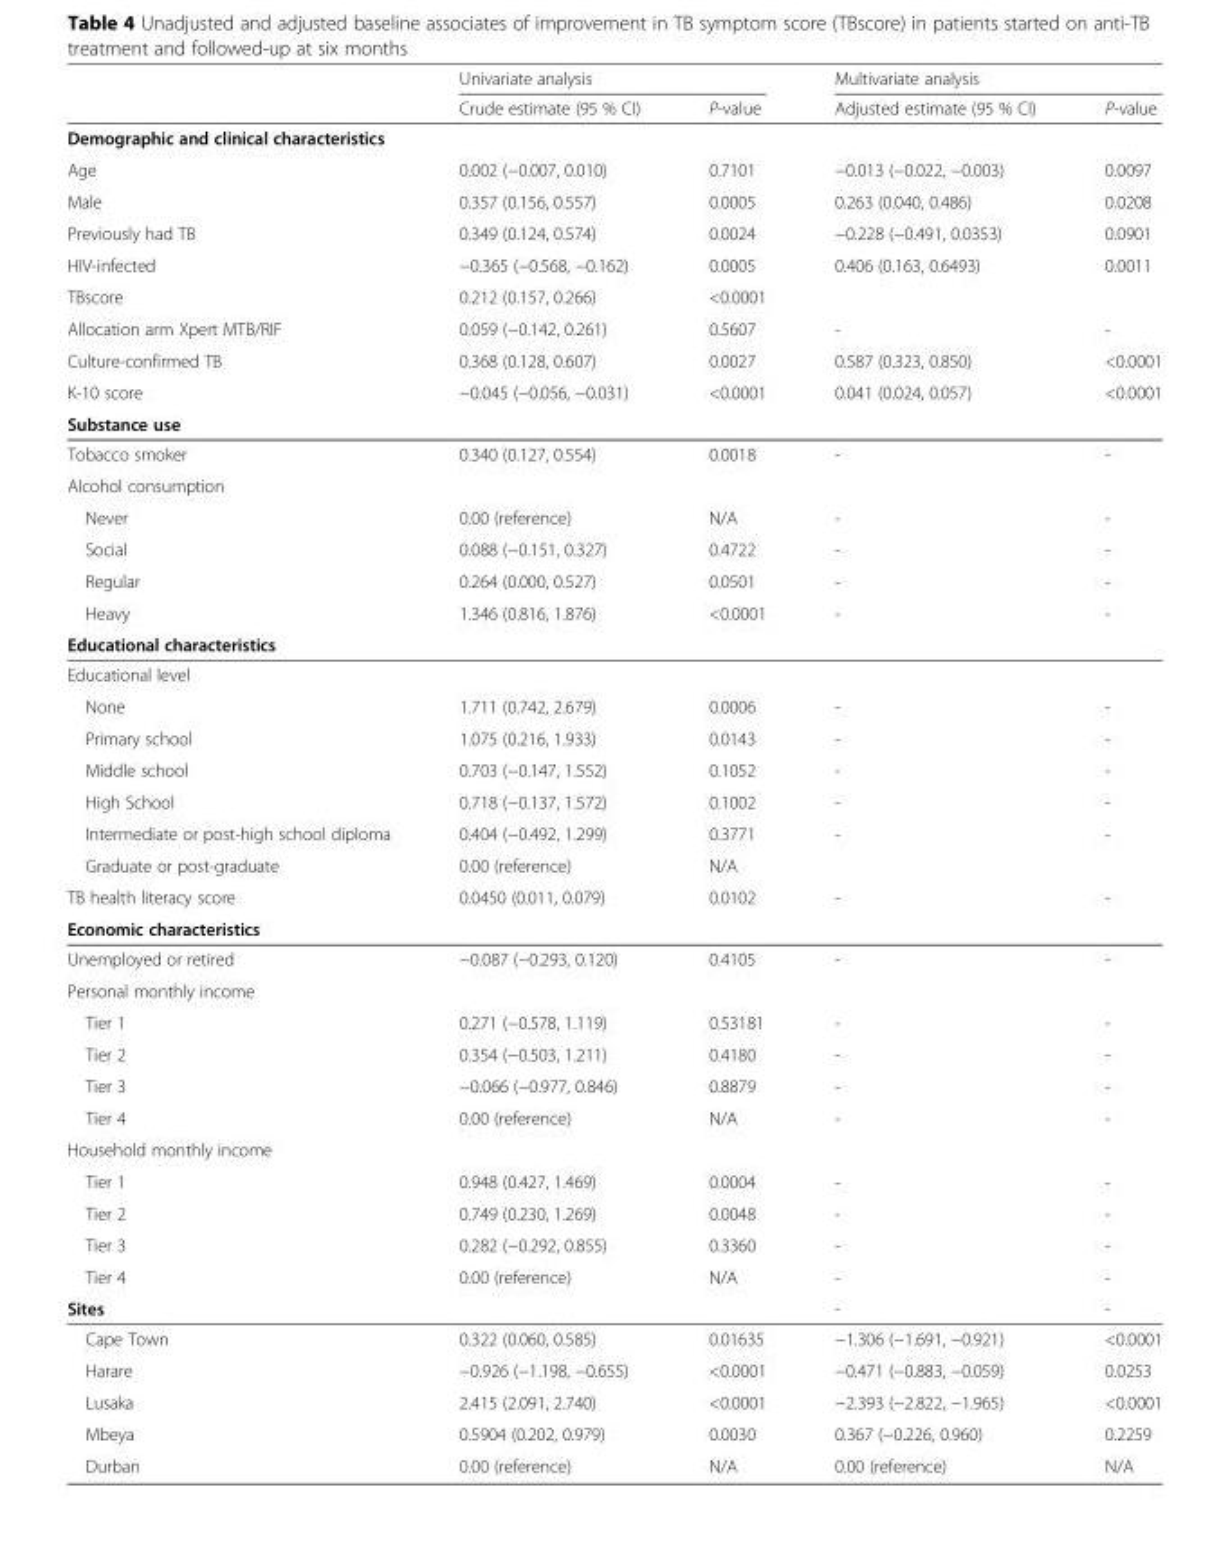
<table><thead><tr><td rowspan="2"></td><td colspan="2">Univariate analysis</td><td colspan="2">Multivariate analysis</td></tr><tr><td>Crude estimate (95 % CI)</td><td>P-value</td><td>Adjusted estimate (95 % CI)</td><td>P-value</td></tr></thead><tbody><tr><td colspan="5">Demographic and clinical characteristics</td></tr><tr><td>Age</td><td>0.002 (−0.007, 0.010)</td><td>0.7101</td><td>−0.013 (−0.022, −0.003)</td><td>0.0097</td></tr><tr><td>Male</td><td>0.357 (0.156, 0.557)</td><td>0.0005</td><td>0.263 (0.040, 0.486)</td><td>0.0208</td></tr><tr><td>Previously had TB</td><td>0.349 (0.124, 0.574)</td><td>0.0024</td><td>−0.228 (−0.491, 0.0353)</td><td>0.0901</td></tr><tr><td>HIV-infected</td><td>−0.365 (−0.568, −0.162)</td><td>0.0005</td><td>0.406 (0.163, 0.6493)</td><td>0.0011</td></tr><tr><td>TBscore</td><td>0.212 (0.157, 0.266)</td><td>&lt;0.0001</td><td></td><td></td></tr><tr><td>Allocation arm Xpert MTB/RIF</td><td>0.059 (−0.142, 0.261)</td><td>0.5607</td><td>-</td><td>-</td></tr><tr><td>Culture-confirmed TB</td><td>0.368 (0.128, 0.607)</td><td>0.0027</td><td>0.587 (0.323, 0.850)</td><td>&lt;0.0001</td></tr><tr><td>K-10 score</td><td>−0.045 (−0.056, −0.031)</td><td>&lt;0.0001</td><td>0.041 (0.024, 0.057)</td><td>&lt;0.0001</td></tr><tr><td colspan="5">Substance use</td></tr><tr><td>Tobacco smoker</td><td>0.340 (0.127, 0.554)</td><td>0.0018</td><td>-</td><td>-</td></tr><tr><td colspan="5">Alcohol consumption</td></tr><tr><td>Never</td><td>0.00 (reference)</td><td>N/A</td><td>-</td><td>-</td></tr><tr><td>Social</td><td>0.088 (−0.151, 0.327)</td><td>0.4722</td><td>-</td><td>-</td></tr><tr><td>Regular</td><td>0.264 (0.000, 0.527)</td><td>0.0501</td><td>-</td><td>-</td></tr><tr><td>Heavy</td><td>1.346 (0.816, 1.876)</td><td>&lt;0.0001</td><td>-</td><td>-</td></tr><tr><td colspan="5">Educational characteristics</td></tr><tr><td colspan="5">Educational level</td></tr><tr><td>None</td><td>1.711 (0.742, 2.679)</td><td>0.0006</td><td>-</td><td>-</td></tr><tr><td>Primary school</td><td>1.075 (0.216, 1.933)</td><td>0.0143</td><td>-</td><td>-</td></tr><tr><td>Middle school</td><td>0.703 (−0.147, 1.552)</td><td>0.1052</td><td>-</td><td>-</td></tr><tr><td>High School</td><td>0.718 (−0.137, 1.572)</td><td>0.1002</td><td>-</td><td>-</td></tr><tr><td>Intermediate or post-high school diploma</td><td>0.404 (−0.492, 1.299)</td><td>0.3771</td><td>-</td><td>-</td></tr><tr><td>Graduate or post-graduate</td><td>0.00 (reference)</td><td>N/A</td><td></td><td></td></tr><tr><td>TB health literacy score</td><td>0.0450 (0.011, 0.079)</td><td>0.0102</td><td>-</td><td>-</td></tr><tr><td colspan="5">Economic characteristics</td></tr><tr><td>Unemployed or retired</td><td>−0.087 (−0.293, 0.120)</td><td>0.4105</td><td>-</td><td>-</td></tr><tr><td colspan="5">Personal monthly income</td></tr><tr><td>Tier 1</td><td>0.271 (−0.578, 1.119)</td><td>0.53181</td><td>-</td><td>-</td></tr><tr><td>Tier 2</td><td>0.354 (−0.503, 1.211)</td><td>0.4180</td><td>-</td><td>-</td></tr><tr><td>Tier 3</td><td>−0.066 (−0.977, 0.846)</td><td>0.8879</td><td>-</td><td>-</td></tr><tr><td>Tier 4</td><td>0.00 (reference)</td><td>N/A</td><td>-</td><td>-</td></tr><tr><td colspan="5">Household monthly income</td></tr><tr><td>Tier 1</td><td>0.948 (0.427, 1.469)</td><td>0.0004</td><td>-</td><td>-</td></tr><tr><td>Tier 2</td><td>0.749 (0.230, 1.269)</td><td>0.0048</td><td>-</td><td>-</td></tr><tr><td>Tier 3</td><td>0.282 (−0.292, 0.855)</td><td>0.3360</td><td>-</td><td>-</td></tr><tr><td>Tier 4</td><td>0.00 (reference)</td><td>N/A</td><td>-</td><td>-</td></tr><tr><td colspan="3">Sites</td><td>-</td><td>-</td></tr><tr><td>Cape Town</td><td>0.322 (0.060, 0.585)</td><td>0.01635</td><td>−1.306 (−1.691, −0.921)</td><td>&lt;0.0001</td></tr><tr><td>Harare</td><td>−0.926 (−1.198, −0.655)</td><td>&lt;0.0001</td><td>−0.471 (−0.883, −0.059)</td><td>0.0253</td></tr><tr><td>Lusaka</td><td>2.415 (2.091, 2.740)</td><td>&lt;0.0001</td><td>−2.393 (−2.822, −1.965)</td><td>&lt;0.0001</td></tr><tr><td>Mbeya</td><td>0.5904 (0.202, 0.979)</td><td>0.0030</td><td>0.367 (−0.226, 0.960)</td><td>0.2259</td></tr><tr><td>Durban</td><td>0.00 (reference)</td><td>N/A</td><td>0.00 (reference)</td><td>N/A</td></tr></tbody></table>